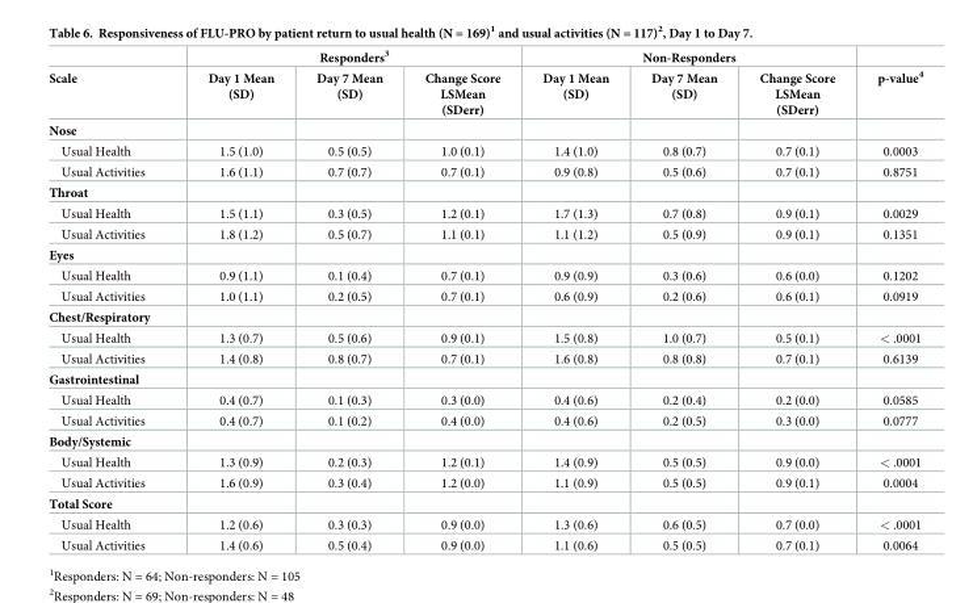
<table><thead><tr><td rowspan="2">Scale</td><td colspan="3">Responders<sup>3</sup></td><td colspan="3">Non-Responders</td><td rowspan="2">p-value<sup>4</sup></td></tr><tr><td>Day 1 Mean (SD)</td><td>Day 7 Mean (SD)</td><td>Change Score LSMean (SDerr)</td><td>Day 1 Mean (SD)</td><td>Day 7 Mean (SD)</td><td>Change Score LSMean (SDerr)</td></tr></thead><tbody><tr><td colspan="8">Nose</td></tr><tr><td>Usual Health</td><td>1.5 (1.0)</td><td>0.5 (0.5)</td><td>1.0 (0.1)</td><td>1.4 (1.0)</td><td>0.8 (0.7)</td><td>0.7 (0.1)</td><td>0.0003</td></tr><tr><td>Usual Activities</td><td>1.6 (1.1)</td><td>0.7 (0.7)</td><td>0.7 (0.1)</td><td>0.9 (0.8)</td><td>0.5 (0.6)</td><td>0.7 (0.1)</td><td>0.8751</td></tr><tr><td colspan="8">Throat</td></tr><tr><td>Usual Health</td><td>1.5 (1.1)</td><td>0.3 (0.5)</td><td>1.2 (0.1)</td><td>1.7 (1.3)</td><td>0.7 (0.8)</td><td>0.9 (0.1)</td><td>0.0029</td></tr><tr><td>Usual Activities</td><td>1.8 (1.2)</td><td>0.5 (0.7)</td><td>1.1 (0.1)</td><td>1.1 (1.2)</td><td>0.5 (0.9)</td><td>0.9 (0.1)</td><td>0.1351</td></tr><tr><td colspan="8">Eyes</td></tr><tr><td>Usual Health</td><td>0.9 (1.1)</td><td>0.1 (0.4)</td><td>0.7 (0.1)</td><td>0.9 (0.9)</td><td>0.3 (0.6)</td><td>0.6 (0.0)</td><td>0.1202</td></tr><tr><td>Usual Activities</td><td>1.0 (1.1)</td><td>0.2 (0.5)</td><td>0.7 (0.1)</td><td>0.6 (0.9)</td><td>0.2 (0.6)</td><td>0.6 (0.1)</td><td>0.0919</td></tr><tr><td colspan="8">Chest/Respiratory</td></tr><tr><td>Usual Health</td><td>1.3 (0.7)</td><td>0.5 (0.6)</td><td>0.9 (0.1)</td><td>1.5 (0.8)</td><td>1.0 (0.7)</td><td>0.5 (0.1)</td><td>&lt; .0001</td></tr><tr><td>Usual Activities</td><td>1.4 (0.8)</td><td>0.8 (0.7)</td><td>0.7 (0.1)</td><td>1.6 (0.8)</td><td>0.8 (0.8)</td><td>0.7 (0.1)</td><td>0.6139</td></tr><tr><td colspan="8">Gastrointestinal</td></tr><tr><td>Usual Health</td><td>0.4 (0.7)</td><td>0.1 (0.3)</td><td>0.3 (0.0)</td><td>0.4 (0.6)</td><td>0.2 (0.4)</td><td>0.2 (0.0)</td><td>0.0585</td></tr><tr><td>Usual Activities</td><td>0.4 (0.7)</td><td>0.1 (0.2)</td><td>0.4 (0.0)</td><td>0.4 (0.6)</td><td>0.2 (0.5)</td><td>0.3 (0.0)</td><td>0.0777</td></tr><tr><td colspan="8">Body/Systemic</td></tr><tr><td>Usual Health</td><td>1.3 (0.9)</td><td>0.2 (0.3)</td><td>1.2 (0.1)</td><td>1.4 (0.9)</td><td>0.5 (0.5)</td><td>0.9 (0.0)</td><td>&lt; .0001</td></tr><tr><td>Usual Activities</td><td>1.6 (0.9)</td><td>0.3 (0.4)</td><td>1.2 (0.0)</td><td>1.1 (0.9)</td><td>0.5 (0.5)</td><td>0.9 (0.1)</td><td>0.0004</td></tr><tr><td colspan="8">Total Score</td></tr><tr><td>Usual Health</td><td>1.2 (0.6)</td><td>0.3 (0.3)</td><td>0.9 (0.0)</td><td>1.3 (0.6)</td><td>0.6 (0.5)</td><td>0.7 (0.0)</td><td>&lt; .0001</td></tr><tr><td>Usual Activities</td><td>1.4 (0.6)</td><td>0.5 (0.4)</td><td>0.9 (0.0)</td><td>1.1 (0.6)</td><td>0.5 (0.5)</td><td>0.7 (0.1)</td><td>0.0064</td></tr></tbody></table>